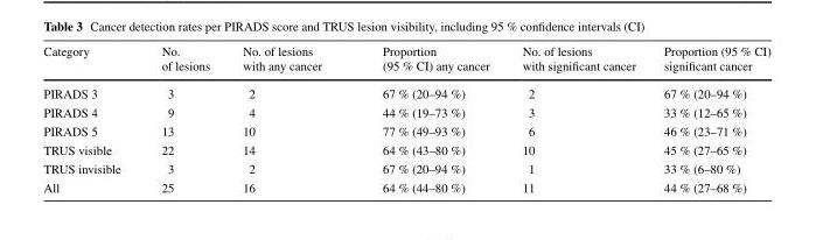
<table><thead><tr><td>Category</td><td>No. of lesions</td><td>No. of lesions with any cancer</td><td>Proportion (95 % CI) any cancer</td><td>No. of lesions with significant cancer</td><td>Proportion (95 % CI) significant cancer</td></tr></thead><tbody><tr><td>PIRADS 3</td><td>3</td><td>2</td><td>67 % (20–94 %)</td><td>2</td><td>67 % (20–94 %)</td></tr><tr><td>PIRADS 4</td><td>9</td><td>4</td><td>44 % (19–73 %)</td><td>3</td><td>33 % (12–65 %)</td></tr><tr><td>PIRADS 5</td><td>13</td><td>10</td><td>77 % (49–93 %)</td><td>6</td><td>46 % (23–71 %)</td></tr><tr><td>TRUS visible</td><td>22</td><td>14</td><td>64 % (43–80 %)</td><td>10</td><td>45 % (27–65 %)</td></tr><tr><td>TRUS invisible</td><td>3</td><td>2</td><td>67 % (20–94 %)</td><td>1</td><td>33 % (6–80 %)</td></tr><tr><td>All</td><td>25</td><td>16</td><td>64 % (44–80 %)</td><td>11</td><td>44 % (27–68 %)</td></tr></tbody></table>